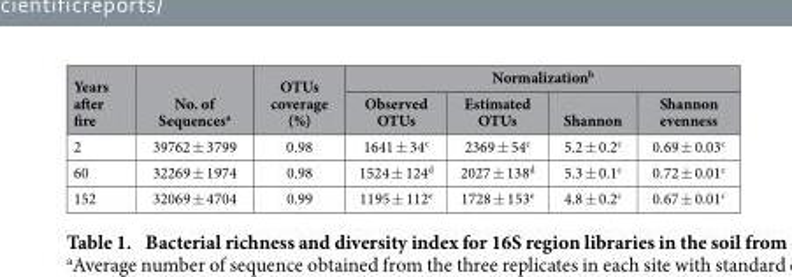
<table><thead><tr><td rowspan="2">Years after fire</td><td rowspan="2">No. of Sequences<sup>a</sup></td><td rowspan="2">OTUs coverage (%)</td><td colspan="4">Normalization<sup>b</sup></td></tr><tr><td>Observed OTUs</td><td>Estimated OTUs</td><td>Shannon</td><td>Shannon evenness</td></tr></thead><tbody><tr><td>2</td><td>39762 ± 3799</td><td>0.98</td><td>1641 ± 34<sup>c</sup></td><td>2369 ± 54<sup>c</sup></td><td>5.2 ± 0.2<sup>c</sup></td><td>0.69 ± 0.03<sup>c</sup></td></tr><tr><td>60</td><td>32269 ± 1974</td><td>0.98</td><td>1524 ± 124<sup>d</sup></td><td>2027 ± 138<sup>d</sup></td><td>5.3 ± 0.1<sup>c</sup></td><td>0.72 ± 0.01<sup>c</sup></td></tr><tr><td>152</td><td>32069 ± 4704</td><td>0.99</td><td>1195 ± 112<sup>e</sup></td><td>1728 ± 153<sup>e</sup></td><td>4.8 ± 0.2<sup>c</sup></td><td>0.67 ± 0.01<sup>c</sup></td></tr></tbody></table>